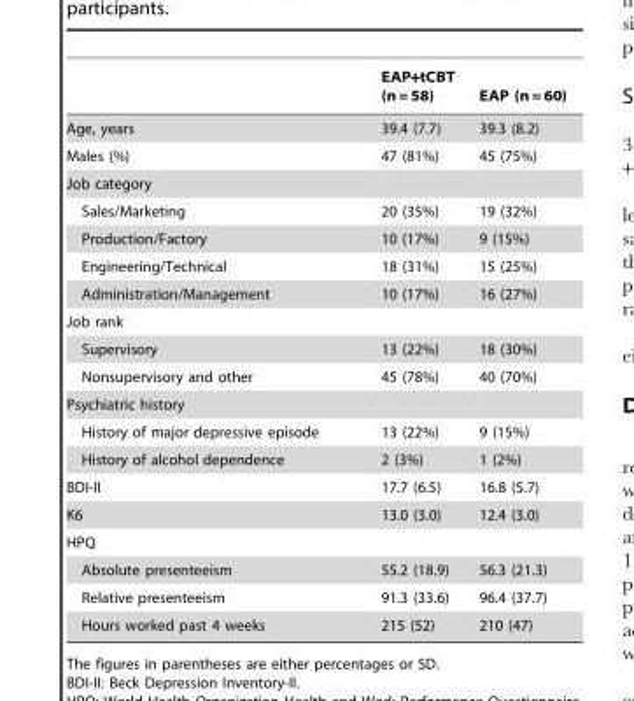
<table><thead><tr><td></td><td>EAP+tCBT (n = 58)</td><td>EAP (n = 60)</td></tr></thead><tbody><tr><td>Age, years</td><td>39.4 (7.7)</td><td>39.3 (8.2)</td></tr><tr><td>Males (%)</td><td>47 (81%)</td><td>45 (75%)</td></tr><tr><td colspan="3">Job category</td></tr><tr><td>Sales/Marketing</td><td>20 (35%)</td><td>19 (32%)</td></tr><tr><td>Production/Factory</td><td>10 (17%)</td><td>9 (15%)</td></tr><tr><td>Engineering/Technical</td><td>18 (31%)</td><td>15 (25%)</td></tr><tr><td>Administration/Management</td><td>10 (17%)</td><td>16 (27%)</td></tr><tr><td colspan="3">Job rank</td></tr><tr><td>Supervisory</td><td>13 (22%)</td><td>18 (30%)</td></tr><tr><td>Nonsupervisory and other</td><td>45 (78%)</td><td>40 (70%)</td></tr><tr><td colspan="3">Psychiatric history</td></tr><tr><td>History of major depressive episode</td><td>13 (22%)</td><td>9 (15%)</td></tr><tr><td>History of alcohol dependence</td><td>2 (3%)</td><td>1 (2%)</td></tr><tr><td>BDI-II</td><td>17.7 (6.5)</td><td>16.8 (5.7)</td></tr><tr><td>K6</td><td>13.0 (3.0)</td><td>12.4 (3.0)</td></tr><tr><td colspan="3">HPQ</td></tr><tr><td>Absolute presenteeism</td><td>55.2 (18.9)</td><td>56.3 (21.3)</td></tr><tr><td>Relative presenteeism</td><td>91.3 (33.6)</td><td>96.4 (37.7)</td></tr><tr><td>Hours worked past 4 weeks</td><td>215 (52)</td><td>210 (47)</td></tr></tbody></table>